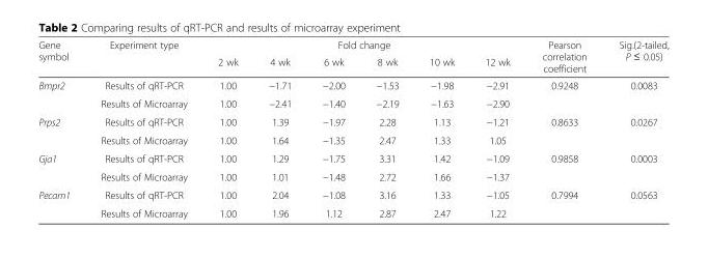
<table><thead><tr><td rowspan="2">Gene symbol</td><td rowspan="2">Experiment type</td><td colspan="6">Fold change</td><td rowspan="2">Pearson correlation coefficient</td><td rowspan="2">Sig.(2-tailed, P ≤ 0.05)</td></tr><tr><td>2 wk</td><td>4 wk</td><td>6 wk</td><td>8 wk</td><td>10 wk</td><td>12 wk</td></tr></thead><tbody><tr><td rowspan="2">Bmpr2</td><td>Results of qRT-PCR</td><td>1.00</td><td>−1.71</td><td>−2.00</td><td>−1.53</td><td>−1.98</td><td>−2.91</td><td rowspan="2">0.9248</td><td rowspan="2">0.0083</td></tr><tr><td>Results of Microarray</td><td>1.00</td><td>−2.41</td><td>−1.40</td><td>−2.19</td><td>−1.63</td><td>−2.90</td></tr><tr><td rowspan="2">Prps2</td><td>Results of qRT-PCR</td><td>1.00</td><td>1.39</td><td>−1.97</td><td>2.28</td><td>1.13</td><td>−1.21</td><td rowspan="2">0.8633</td><td rowspan="2">0.0267</td></tr><tr><td>Results of Microarray</td><td>1.00</td><td>1.64</td><td>−1.35</td><td>2.47</td><td>1.33</td><td>1.05</td></tr><tr><td rowspan="2">Gja1</td><td>Results of qRT-PCR</td><td>1.00</td><td>1.29</td><td>−1.75</td><td>3.31</td><td>1.42</td><td>−1.09</td><td rowspan="2">0.9858</td><td rowspan="2">0.0003</td></tr><tr><td>Results of Microarray</td><td>1.00</td><td>1.01</td><td>−1.48</td><td>2.72</td><td>1.66</td><td>−1.37</td></tr><tr><td rowspan="2">Pecam1</td><td>Results of qRT-PCR</td><td>1.00</td><td>2.04</td><td>−1.08</td><td>3.16</td><td>1.33</td><td>−1.05</td><td rowspan="2">0.7994</td><td rowspan="2">0.0563</td></tr><tr><td>Results of Microarray</td><td>1.00</td><td>1.96</td><td>1.12</td><td>2.87</td><td>2.47</td><td>1.22</td></tr></tbody></table>